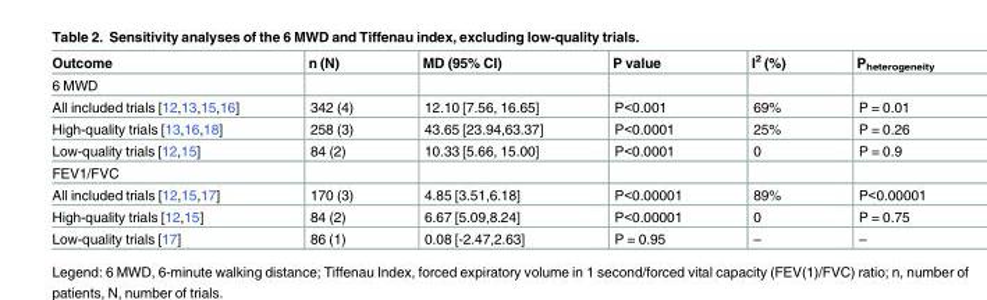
<table><thead><tr><td>Outcome</td><td>n (N)</td><td>MD (95% CI)</td><td>P value</td><td>I<sup>2</sup> (%)</td><td>P<sub>heterogeneity</sub></td></tr></thead><tbody><tr><td colspan="6">6 MWD</td></tr><tr><td>All included trials [12,13,15,16]</td><td>342 (4)</td><td>12.10 [7.56, 16.65]</td><td>P&lt;0.001</td><td>69%</td><td>P = 0.01</td></tr><tr><td>High-quality trials [13,16,18]</td><td>258 (3)</td><td>43.65 [23.94,63.37]</td><td>P&lt;0.0001</td><td>25%</td><td>P = 0.26</td></tr><tr><td>Low-quality trials [12,15]</td><td>84 (2)</td><td>10.33 [5.66, 15.00]</td><td>P&lt;0.0001</td><td>0</td><td>P = 0.9</td></tr><tr><td colspan="6">FEV1/FVC</td></tr><tr><td>All included trials [12,15,17]</td><td>170 (3)</td><td>4.85 [3.51,6.18]</td><td>P&lt;0.00001</td><td>89%</td><td>P&lt;0.00001</td></tr><tr><td>High-quality trials [12,15]</td><td>84 (2)</td><td>6.67 [5.09,8.24]</td><td>P&lt;0.00001</td><td>0</td><td>P = 0.75</td></tr><tr><td>Low-quality trials [17]</td><td>86 (1)</td><td>0.08 [-2.47,2.63]</td><td>P = 0.95</td><td>–</td><td>–</td></tr></tbody></table>